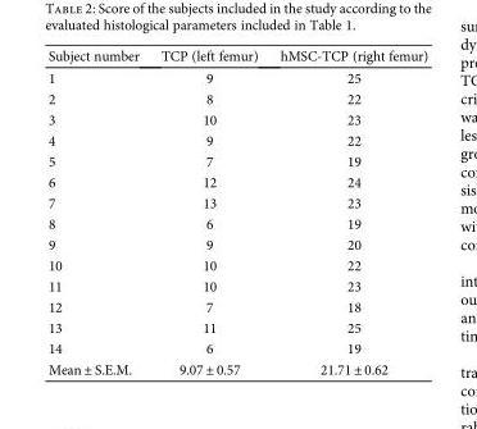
<table><thead><tr><td>Subject number</td><td>TCP (left femur)</td><td>hMSC-TCP (right femur)</td></tr></thead><tbody><tr><td>1</td><td>9</td><td>25</td></tr><tr><td>2</td><td>8</td><td>22</td></tr><tr><td>3</td><td>10</td><td>23</td></tr><tr><td>4</td><td>9</td><td>22</td></tr><tr><td>5</td><td>7</td><td>19</td></tr><tr><td>6</td><td>12</td><td>24</td></tr><tr><td>7</td><td>13</td><td>23</td></tr><tr><td>8</td><td>6</td><td>19</td></tr><tr><td>9</td><td>9</td><td>20</td></tr><tr><td>10</td><td>10</td><td>22</td></tr><tr><td>11</td><td>10</td><td>23</td></tr><tr><td>12</td><td>7</td><td>18</td></tr><tr><td>13</td><td>11</td><td>25</td></tr><tr><td>14</td><td>6</td><td>19</td></tr><tr><td>Mean ± S.E.M.</td><td>9.07 ± 0.57</td><td>21.71 ± 0.62</td></tr></tbody></table>